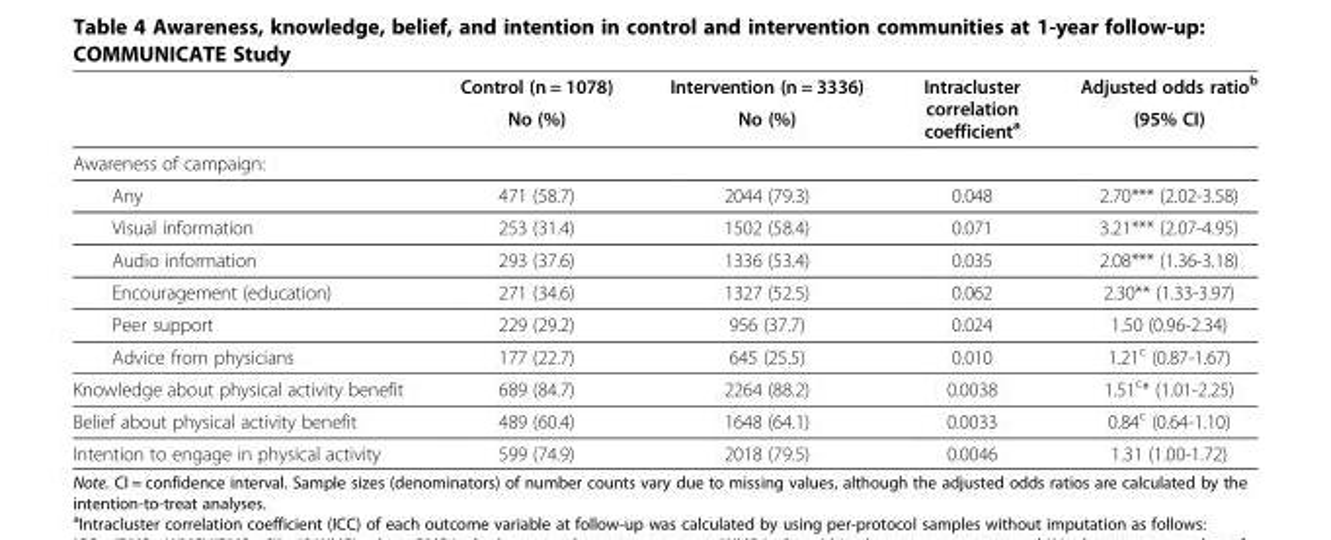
<table><thead><tr><td rowspan="2"></td><td rowspan="2">Control (n = 1078) No (%)</td><td rowspan="2">Intervention (n = 3336) No (%)</td><td rowspan="2">Intracluster correlation coefficient<sup>a</sup></td><td rowspan="2">Adjusted odds ratio<sup>b</sup> (95% CI)</td></tr><tr></tr></thead><tbody><tr><td colspan="5">Awareness of campaign:</td></tr><tr><td>Any</td><td>471 (58.7)</td><td>2044 (79.3)</td><td>0.048</td><td>2.70*** (2.02-3.58)</td></tr><tr><td>Visual information</td><td>253 (31.4)</td><td>1502 (58.4)</td><td>0.071</td><td>3.21*** (2.07-4.95)</td></tr><tr><td>Audio information</td><td>293 (37.6)</td><td>1336 (53.4)</td><td>0.035</td><td>2.08*** (1.36-3.18)</td></tr><tr><td>Encouragement (education)</td><td>271 (34.6)</td><td>1327 (52.5)</td><td>0.062</td><td>2.30** (1.33-3.97)</td></tr><tr><td>Peer support</td><td>229 (29.2)</td><td>956 (37.7)</td><td>0.024</td><td>1.50 (0.96-2.34)</td></tr><tr><td>Advice from physicians</td><td>177 (22.7)</td><td>645 (25.5)</td><td>0.010</td><td>1.21<sup>c</sup> (0.87-1.67)</td></tr><tr><td>Knowledge about physical activity benefit</td><td>689 (84.7)</td><td>2264 (88.2)</td><td>0.0038</td><td>1.51<sup>c</sup>* (1.01-2.25)</td></tr><tr><td>Belief about physical activity benefit</td><td>489 (60.4)</td><td>1648 (64.1)</td><td>0.0033</td><td>0.84<sup>c</sup> (0.64-1.10)</td></tr><tr><td>Intention to engage in physical activity</td><td>599 (74.9)</td><td>2018 (79.5)</td><td>0.0046</td><td>1.31 (1.00-1.72)</td></tr></tbody></table>